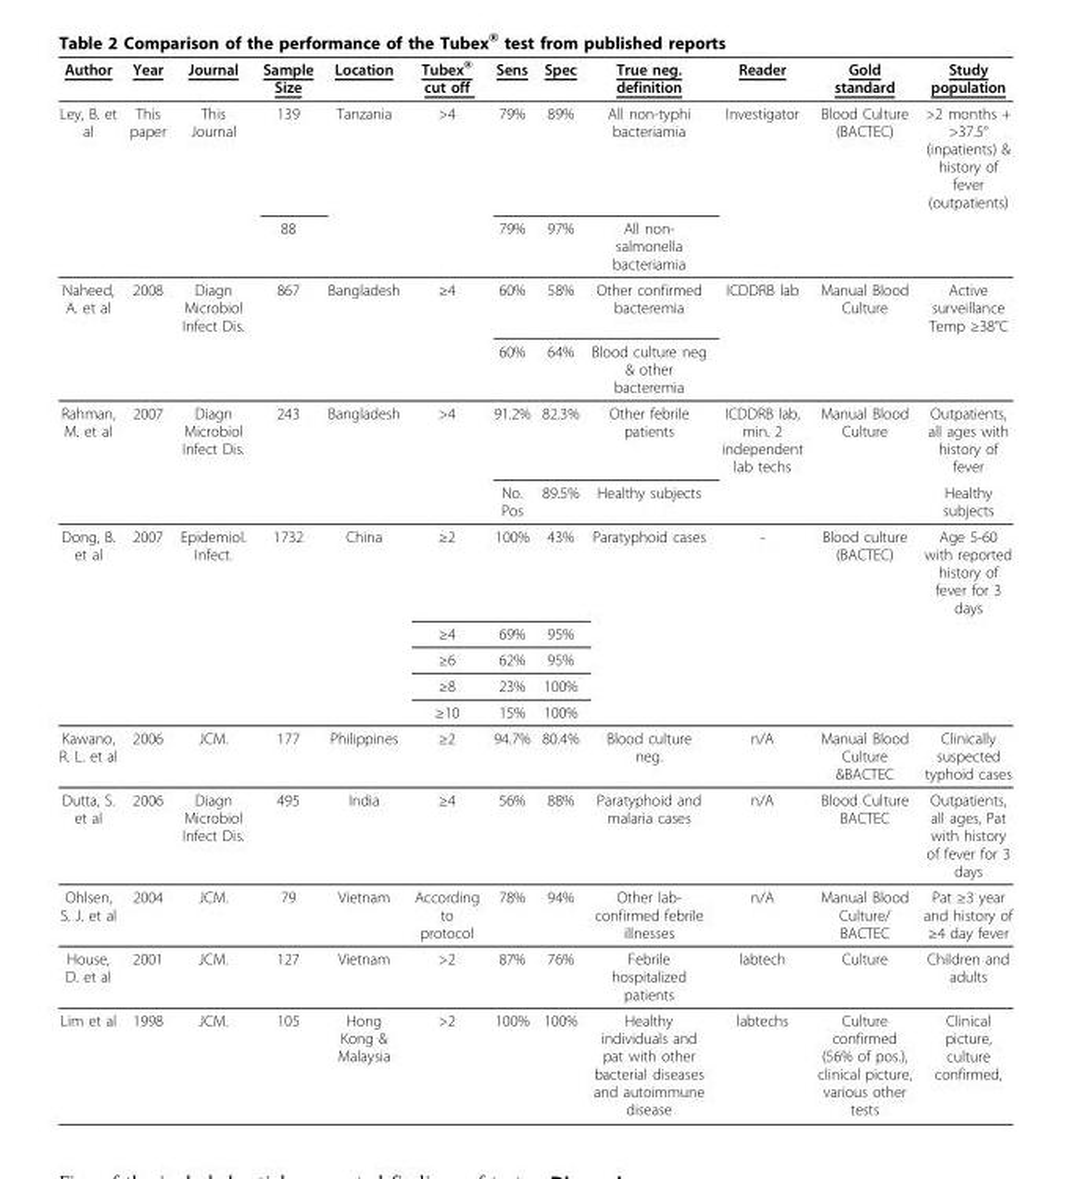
<table><thead><tr><td>Author</td><td>Year</td><td>Journal</td><td>Sample Size</td><td>Location</td><td>Tubex<sup>®</sup> cut off</td><td>Sens</td><td>Spec</td><td>True neg. definition</td><td>Reader</td><td>Gold standard</td><td>Study population</td></tr></thead><tbody><tr><td rowspan="2">Ley, B. et al</td><td>This paper</td><td>This Journal</td><td>139</td><td>Tanzania</td><td>&gt;4</td><td>79%</td><td>89%</td><td>All non-typhi bacteriamia</td><td>Investigator</td><td>Blood Culture (BACTEC)</td><td>&gt;2 months + &gt;37.5° (inpatients) &amp; history of fever (outpatients)</td></tr><tr><td></td><td></td><td>88</td><td></td><td></td><td>79%</td><td>97%</td><td>All non- salmonella bacteriamia</td><td></td><td></td><td></td></tr><tr><td rowspan="2">Naheed, A. et al</td><td>2008</td><td>Diagn Microbiol Infect Dis.</td><td>867</td><td>Bangladesh</td><td>≥4</td><td>60%</td><td>58%</td><td>Other confirmed bacteremia</td><td>ICDDRB lab</td><td>Manual Blood Culture</td><td>Active surveillance Temp ≥38°C</td></tr><tr><td></td><td></td><td></td><td></td><td></td><td>60%</td><td>64%</td><td>Blood culture neg &amp; other bacteremia</td><td></td><td></td><td></td></tr><tr><td rowspan="2">Rahman, M. et al</td><td>2007</td><td>Diagn Microbiol Infect Dis.</td><td>243</td><td>Bangladesh</td><td>&gt;4</td><td>91.2%</td><td>82.3%</td><td>Other febrile patients</td><td>ICDDRB lab, min. 2 independent lab techs</td><td>Manual Blood Culture</td><td>Outpatients, all ages with history of fever</td></tr><tr><td></td><td></td><td></td><td></td><td></td><td>No. Pos</td><td>89.5%</td><td>Healthy subjects</td><td></td><td></td><td>Healthy subjects</td></tr><tr><td rowspan="5">Dong, B. et al</td><td>2007</td><td>Epidemiol. Infect.</td><td>1732</td><td>China</td><td>≥2</td><td>100%</td><td>43%</td><td>Paratyphoid cases</td><td>-</td><td>Blood culture (BACTEC)</td><td>Age 5-60 with reported history of fever for 3 days</td></tr><tr><td></td><td></td><td></td><td></td><td>≥4</td><td>69%</td><td>95%</td><td></td><td></td><td></td><td></td></tr><tr><td></td><td></td><td></td><td></td><td>≥6</td><td>62%</td><td>95%</td><td></td><td></td><td></td><td></td></tr><tr><td></td><td></td><td></td><td></td><td>≥8</td><td>23%</td><td>100%</td><td></td><td></td><td></td><td></td></tr><tr><td></td><td></td><td></td><td></td><td>≥10</td><td>15%</td><td>100%</td><td></td><td></td><td></td><td></td></tr><tr><td>Kawano, R. L. et al</td><td>2006</td><td>JCM.</td><td>177</td><td>Philippines</td><td>≥2</td><td>94.7%</td><td>80.4%</td><td>Blood culture neg.</td><td>n/A</td><td>Manual Blood Culture &amp;BACTEC</td><td>Clinically suspected typhoid cases</td></tr><tr><td>Dutta, S. et al</td><td>2006</td><td>Diagn Microbiol Infect Dis.</td><td>495</td><td>India</td><td>≥4</td><td>56%</td><td>88%</td><td>Paratyphoid and malaria cases</td><td>n/A</td><td>Blood Culture BACTEC</td><td>Outpatients, all ages, Pat with history of fever for 3 days</td></tr><tr><td>Ohlsen, S. J. et al</td><td>2004</td><td>JCM.</td><td>79</td><td>Vietnam</td><td>According to protocol</td><td>78%</td><td>94%</td><td>Other lab- confirmed febrile illnesses</td><td>n/A</td><td>Manual Blood Culture/ BACTEC</td><td>Pat ≥3 year and history of ≥4 day fever</td></tr><tr><td>House, D. et al</td><td>2001</td><td>JCM.</td><td>127</td><td>Vietnam</td><td>&gt;2</td><td>87%</td><td>76%</td><td>Febrile hospitalized patients</td><td>labtech</td><td>Culture</td><td>Children and adults</td></tr><tr><td>Lim et al</td><td>1998</td><td>JCM.</td><td>105</td><td>Hong Kong &amp; Malaysia</td><td>&gt;2</td><td>100%</td><td>100%</td><td>Healthy individuals and pat with other bacterial diseases and autoimmune disease</td><td>labtechs</td><td>Culture confirmed (56% of pos.), clinical picture, various other tests</td><td>Clinical picture, culture confirmed,</td></tr></tbody></table>